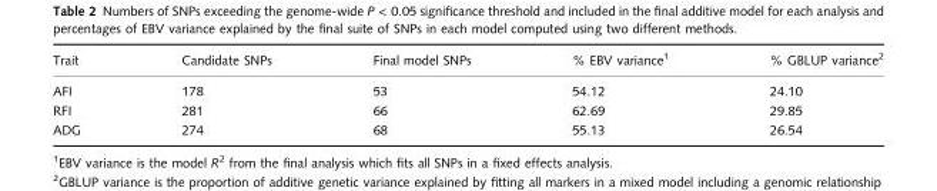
<table><thead><tr><td>Trait</td><td>Candidate SNPs</td><td>Final model SNPs</td><td>% EBV variance<sup>1</sup></td><td>% GBLUP variance<sup>2</sup></td></tr></thead><tbody><tr><td>AFI</td><td>178</td><td>53</td><td>54.12</td><td>24.10</td></tr><tr><td>RFI</td><td>281</td><td>66</td><td>62.69</td><td>29.85</td></tr><tr><td>ADG</td><td>274</td><td>68</td><td>55.13</td><td>26.54</td></tr></tbody></table>